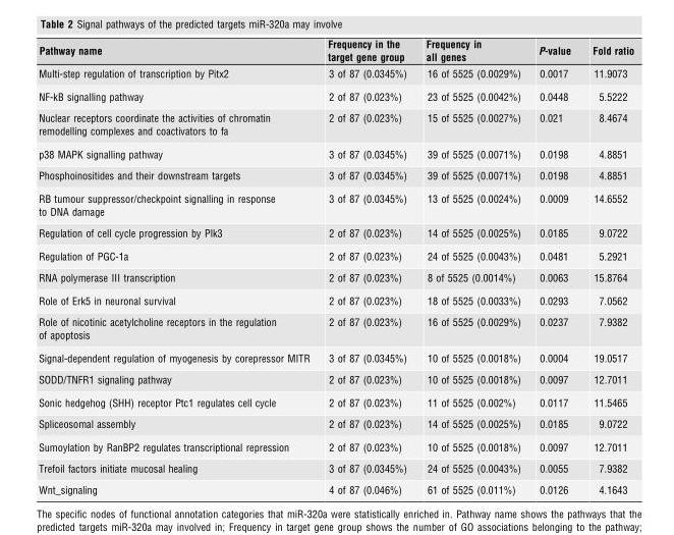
<table><thead><tr><td>Pathway name</td><td>Frequency in the target gene group</td><td>Frequency in all genes</td><td>P-value</td><td>Fold ratio</td></tr></thead><tbody><tr><td>Multi-step regulation of transcription by Pitx2</td><td>3 of 87 (0.0345%)</td><td>16 of 5525 (0.0029%)</td><td>0.0017</td><td>11.9073</td></tr><tr><td>NF-kB signalling pathway</td><td>2 of 87 (0.023%)</td><td>23 of 5525 (0.0042%)</td><td>0.0448</td><td>5.5222</td></tr><tr><td>Nuclear receptors coordinate the activities of chromatin remodelling complexes and coactivators to fa</td><td>2 of 87 (0.023%)</td><td>15 of 5525 (0.0027%)</td><td>0.021</td><td>8.4674</td></tr><tr><td>p38 MAPK signalling pathway</td><td>3 of 87 (0.0345%)</td><td>39 of 5525 (0.0071%)</td><td>0.0198</td><td>4.8851</td></tr><tr><td>Phosphoinositides and their downstream targets</td><td>3 of 87 (0.0345%)</td><td>39 of 5525 (0.0071%)</td><td>0.0198</td><td>4.8851</td></tr><tr><td>RB tumour suppressor/checkpoint signalling in response to DNA damage</td><td>3 of 87 (0.0345%)</td><td>13 of 5525 (0.0024%)</td><td>0.0009</td><td>14.6552</td></tr><tr><td>Regulation of cell cycle progression by Plk3</td><td>2 of 87 (0.023%)</td><td>14 of 5525 (0.0025%)</td><td>0.0185</td><td>9.0722</td></tr><tr><td>Regulation of PGC-1a</td><td>2 of 87 (0.023%)</td><td>24 of 5525 (0.0043%)</td><td>0.0481</td><td>5.2921</td></tr><tr><td>RNA polymerase III transcription</td><td>2 of 87 (0.023%)</td><td>8 of 5525 (0.0014%)</td><td>0.0063</td><td>15.8764</td></tr><tr><td>Role of Erk5 in neuronal survival</td><td>2 of 87 (0.023%)</td><td>18 of 5525 (0.0033%)</td><td>0.0293</td><td>7.0562</td></tr><tr><td>Role of nicotinic acetylcholine receptors in the regulation of apoptosis</td><td>2 of 87 (0.023%)</td><td>16 of 5525 (0.0029%)</td><td>0.0237</td><td>7.9382</td></tr><tr><td>Signal-dependent regulation of myogenesis by corepressor MITR</td><td>3 of 87 (0.0345%)</td><td>10 of 5525 (0.0018%)</td><td>0.0004</td><td>19.0517</td></tr><tr><td>SODD/TNFR1 signaling pathway</td><td>2 of 87 (0.023%)</td><td>10 of 5525 (0.0018%)</td><td>0.0097</td><td>12.7011</td></tr><tr><td>Sonic hedgehog (SHH) receptor Ptc1 regulates cell cycle</td><td>2 of 87 (0.023%)</td><td>11 of 5525 (0.002%)</td><td>0.0117</td><td>11.5465</td></tr><tr><td>Spliceosomal assembly</td><td>2 of 87 (0.023%)</td><td>14 of 5525 (0.0025%)</td><td>0.0185</td><td>9.0722</td></tr><tr><td>Sumoylation by RanBP2 regulates transcriptional repression</td><td>2 of 87 (0.023%)</td><td>10 of 5525 (0.0018%)</td><td>0.0097</td><td>12.7011</td></tr><tr><td>Trefoil factors initiate mucosal healing</td><td>3 of 87 (0.0345%)</td><td>24 of 5525 (0.0043%)</td><td>0.0055</td><td>7.9382</td></tr><tr><td>Wnt_signaling</td><td>4 of 87 (0.046%)</td><td>61 of 5525 (0.011%)</td><td>0.0126</td><td>4.1643</td></tr></tbody></table>